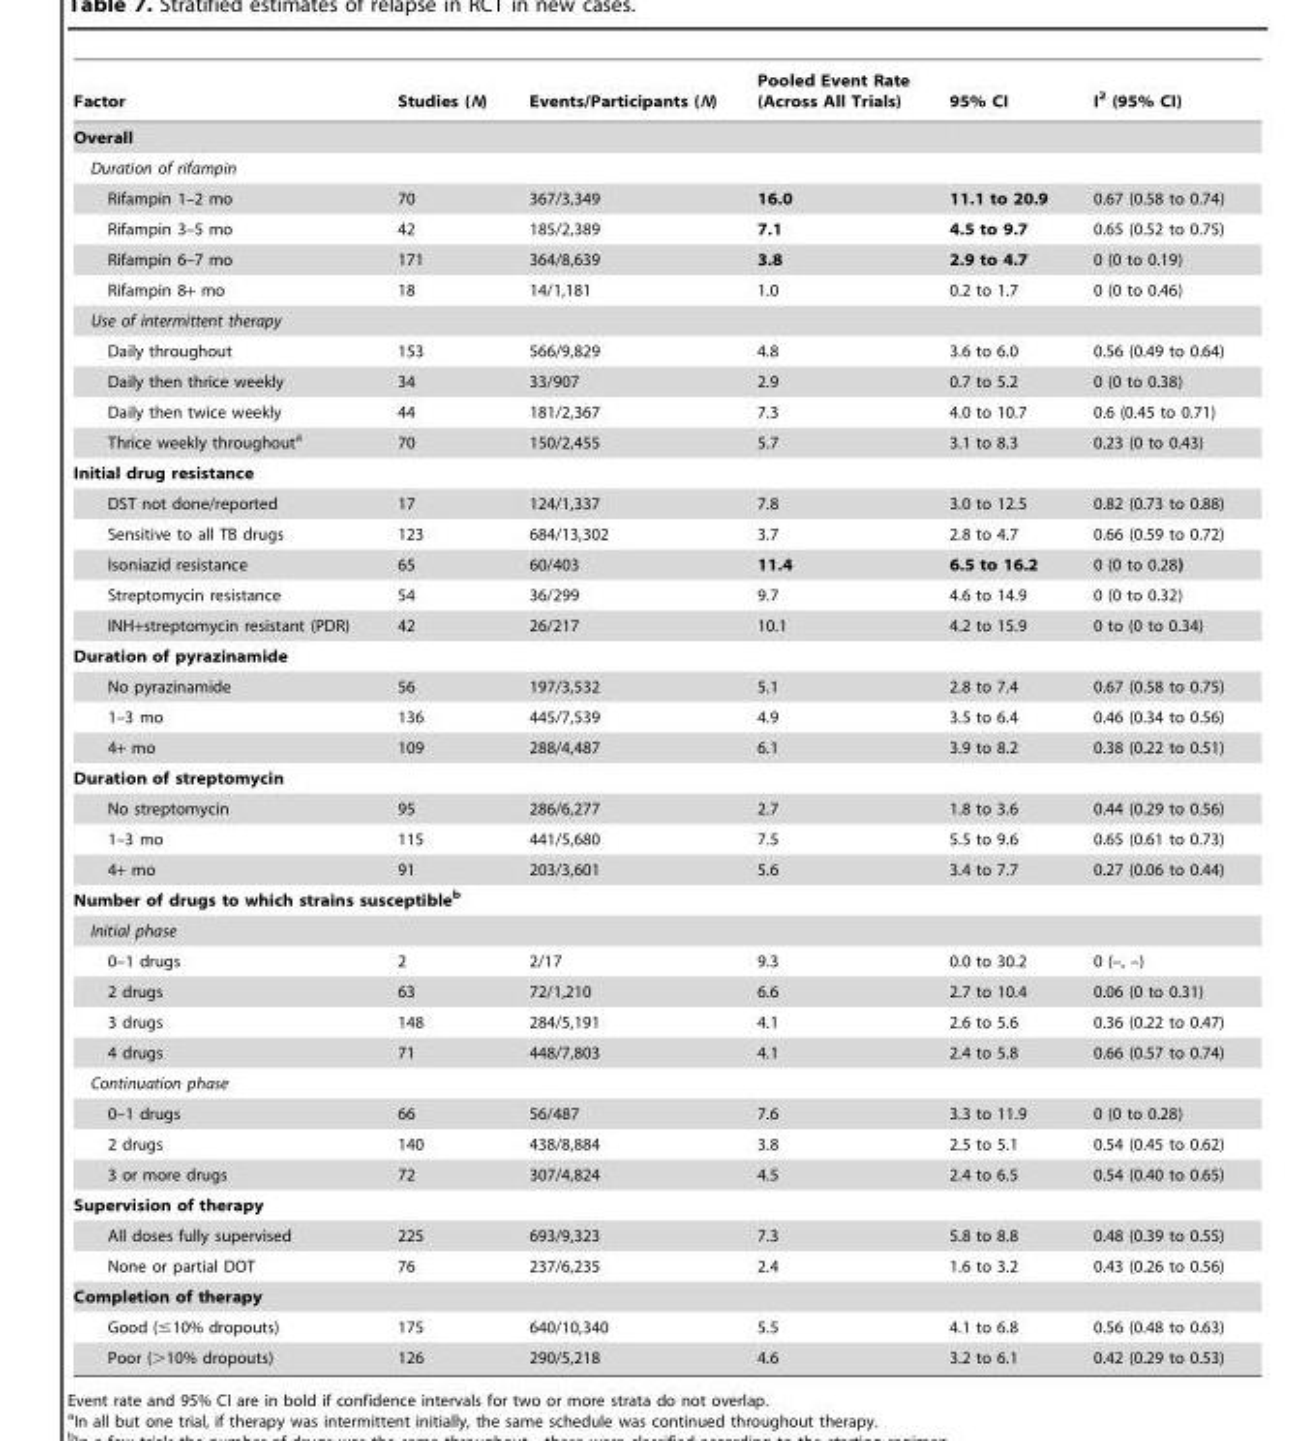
<table><thead><tr><td>Factor</td><td>Studies (N)</td><td>Events/Participants (N)</td><td>Pooled Event Rate (Across All Trials)</td><td>95% CI</td><td>I<sup>2</sup> (95% CI)</td></tr></thead><tbody><tr><td colspan="6">Overall</td></tr><tr><td colspan="6">Duration of rifampin</td></tr><tr><td>Rifampin 1–2 mo</td><td>70</td><td>367/3,349</td><td>16.0</td><td>11.1 to 20.9</td><td>0.67 (0.58 to 0.74)</td></tr><tr><td>Rifampin 3–5 mo</td><td>42</td><td>185/2,389</td><td>7.1</td><td>4.5 to 9.7</td><td>0.65 (0.52 to 0.75)</td></tr><tr><td>Rifampin 6–7 mo</td><td>171</td><td>364/8,639</td><td>3.8</td><td>2.9 to 4.7</td><td>0 (0 to 0.19)</td></tr><tr><td>Rifampin 8+ mo</td><td>18</td><td>14/1,181</td><td>1.0</td><td>0.2 to 1.7</td><td>0 (0 to 0.46)</td></tr><tr><td colspan="6">Use of intermittent therapy</td></tr><tr><td>Daily throughout</td><td>153</td><td>566/9,829</td><td>4.8</td><td>3.6 to 6.0</td><td>0.56 (0.49 to 0.64)</td></tr><tr><td>Daily then thrice weekly</td><td>34</td><td>33/907</td><td>2.9</td><td>0.7 to 5.2</td><td>0 (0 to 0.38)</td></tr><tr><td>Daily then twice weekly</td><td>44</td><td>181/2,367</td><td>7.3</td><td>4.0 to 10.7</td><td>0.6 (0.45 to 0.71)</td></tr><tr><td>Thrice weekly throughout<sup>a</sup></td><td>70</td><td>150/2,455</td><td>5.7</td><td>3.1 to 8.3</td><td>0.23 (0 to 0.43)</td></tr><tr><td colspan="6">Initial drug resistance</td></tr><tr><td>DST not done/reported</td><td>17</td><td>124/1,337</td><td>7.8</td><td>3.0 to 12.5</td><td>0.82 (0.73 to 0.88)</td></tr><tr><td>Sensitive to all TB drugs</td><td>123</td><td>684/13,302</td><td>3.7</td><td>2.8 to 4.7</td><td>0.66 (0.59 to 0.72)</td></tr><tr><td>Isoniazid resistance</td><td>65</td><td>60/403</td><td>11.4</td><td>6.5 to 16.2</td><td>0 (0 to 0.28)</td></tr><tr><td>Streptomycin resistance</td><td>54</td><td>36/299</td><td>9.7</td><td>4.6 to 14.9</td><td>0 (0 to 0.32)</td></tr><tr><td>INH+streptomycin resistant (PDR)</td><td>42</td><td>26/217</td><td>10.1</td><td>4.2 to 15.9</td><td>0 to (0 to 0.34)</td></tr><tr><td colspan="6">Duration of pyrazinamide</td></tr><tr><td>No pyrazinamide</td><td>56</td><td>197/3,532</td><td>5.1</td><td>2.8 to 7.4</td><td>0.67 (0.58 to 0.75)</td></tr><tr><td>1–3 mo</td><td>136</td><td>445/7,539</td><td>4.9</td><td>3.5 to 6.4</td><td>0.46 (0.34 to 0.56)</td></tr><tr><td>4+ mo</td><td>109</td><td>288/4,487</td><td>6.1</td><td>3.9 to 8.2</td><td>0.38 (0.22 to 0.51)</td></tr><tr><td colspan="6">Duration of streptomycin</td></tr><tr><td>No streptomycin</td><td>95</td><td>286/6,277</td><td>2.7</td><td>1.8 to 3.6</td><td>0.44 (0.29 to 0.56)</td></tr><tr><td>1–3 mo</td><td>115</td><td>441/5,680</td><td>7.5</td><td>5.5 to 9.6</td><td>0.65 (0.61 to 0.73)</td></tr><tr><td>4+ mo</td><td>91</td><td>203/3,601</td><td>5.6</td><td>3.4 to 7.7</td><td>0.27 (0.06 to 0.44)</td></tr><tr><td colspan="6">Number of drugs to which strains susceptibleb</td></tr><tr><td colspan="6">Initial phase</td></tr><tr><td>0–1 drugs</td><td>2</td><td>2/17</td><td>9.3</td><td>0.0 to 30.2</td><td>0 (–, –)</td></tr><tr><td>2 drugs</td><td>63</td><td>72/1,210</td><td>6.6</td><td>2.7 to 10.4</td><td>0.06 (0 to 0.31)</td></tr><tr><td>3 drugs</td><td>148</td><td>284/5,191</td><td>4.1</td><td>2.6 to 5.6</td><td>0.36 (0.22 to 0.47)</td></tr><tr><td>4 drugs</td><td>71</td><td>448/7,803</td><td>4.1</td><td>2.4 to 5.8</td><td>0.66 (0.57 to 0.74)</td></tr><tr><td colspan="6">Continuation phase</td></tr><tr><td>0–1 drugs</td><td>66</td><td>56/487</td><td>7.6</td><td>3.3 to 11.9</td><td>0 (0 to 0.28)</td></tr><tr><td>2 drugs</td><td>140</td><td>438/8,884</td><td>3.8</td><td>2.5 to 5.1</td><td>0.54 (0.45 to 0.62)</td></tr><tr><td>3 or more drugs</td><td>72</td><td>307/4,824</td><td>4.5</td><td>2.4 to 6.5</td><td>0.54 (0.40 to 0.65)</td></tr><tr><td colspan="6">Supervision of therapy</td></tr><tr><td>All doses fully supervised</td><td>225</td><td>693/9,323</td><td>7.3</td><td>5.8 to 8.8</td><td>0.48 (0.39 to 0.55)</td></tr><tr><td>None or partial DOT</td><td>76</td><td>237/6,235</td><td>2.4</td><td>1.6 to 3.2</td><td>0.43 (0.26 to 0.56)</td></tr><tr><td colspan="6">Completion of therapy</td></tr><tr><td>Good (≤10% dropouts)</td><td>175</td><td>640/10,340</td><td>5.5</td><td>4.1 to 6.8</td><td>0.56 (0.48 to 0.63)</td></tr><tr><td>Poor (&gt;10% dropouts)</td><td>126</td><td>290/5,218</td><td>4.6</td><td>3.2 to 6.1</td><td>0.42 (0.29 to 0.53)</td></tr></tbody></table>